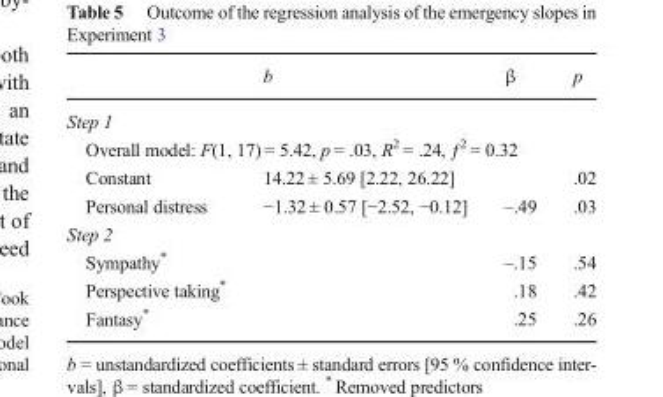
<table><thead><tr><td></td><td>b</td><td>β</td><td>p</td></tr></thead><tbody><tr><td colspan="4">Step 1</td></tr><tr><td colspan="4">Overall model: F(1, 17) = 5.42, p = .03, R<sup>2</sup> = .24, ƒ<sup>2</sup> = 0.32</td></tr><tr><td>Constant</td><td>14.22 ± 5.69 [2.22, 26.22]</td><td></td><td>.02</td></tr><tr><td>Personal distress</td><td>−1.32 ± 0.57 [−2.52, −0.12]</td><td>–.49</td><td>.03</td></tr><tr><td colspan="4">Step 2</td></tr><tr><td>Sympathy*</td><td></td><td>–.15</td><td>.54</td></tr><tr><td>Perspective taking*</td><td></td><td>.18</td><td>.42</td></tr><tr><td>Fantasy*</td><td></td><td>.25</td><td>.26</td></tr></tbody></table>